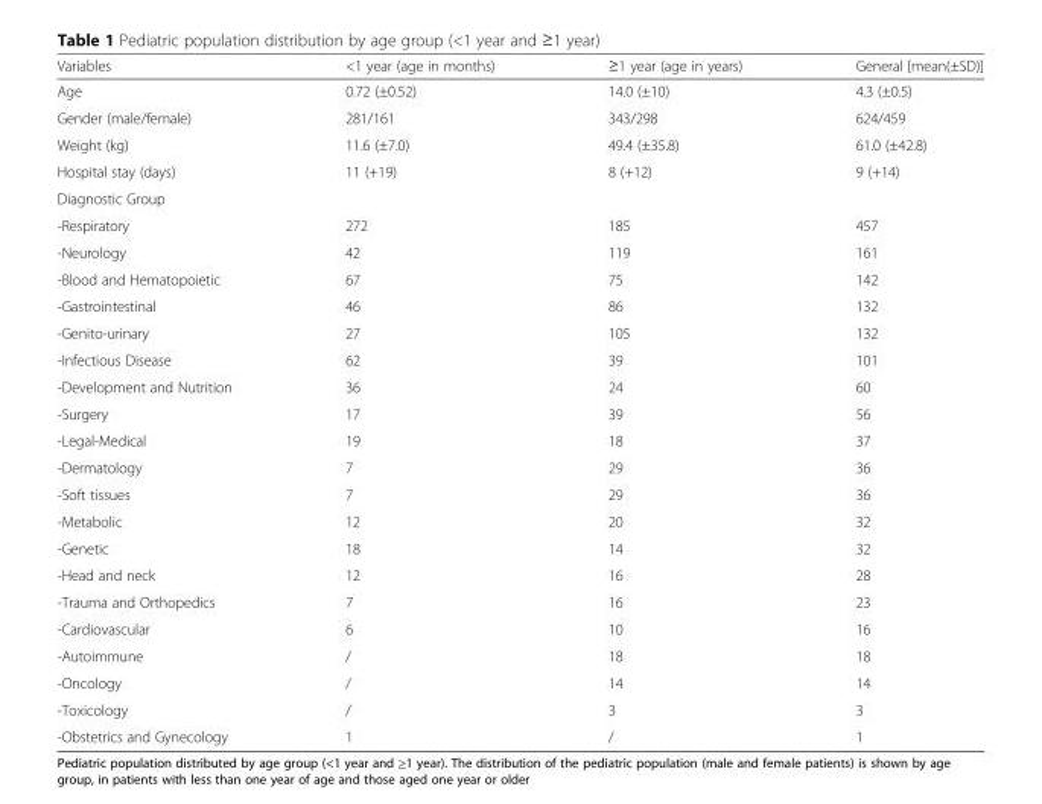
<table><thead><tr><td>Variables</td><td>&lt;1 year (age in months)</td><td>≥1 year (age in years)</td><td>General [mean(±SD)]</td></tr></thead><tbody><tr><td>Age</td><td>0.72 (±0.52)</td><td>14.0 (±10)</td><td>4.3 (±0.5)</td></tr><tr><td>Gender (male/female)</td><td>281/161</td><td>343/298</td><td>624/459</td></tr><tr><td>Weight (kg)</td><td>11.6 (±7.0)</td><td>49.4 (±35.8)</td><td>61.0 (±42.8)</td></tr><tr><td>Hospital stay (days)</td><td>11 (+19)</td><td>8 (+12)</td><td>9 (+14)</td></tr><tr><td colspan="4">Diagnostic Group</td></tr><tr><td>-Respiratory</td><td>272</td><td>185</td><td>457</td></tr><tr><td>-Neurology</td><td>42</td><td>119</td><td>161</td></tr><tr><td>-Blood and Hematopoietic</td><td>67</td><td>75</td><td>142</td></tr><tr><td>-Gastrointestinal</td><td>46</td><td>86</td><td>132</td></tr><tr><td>-Genito-urinary</td><td>27</td><td>105</td><td>132</td></tr><tr><td>-Infectious Disease</td><td>62</td><td>39</td><td>101</td></tr><tr><td>-Development and Nutrition</td><td>36</td><td>24</td><td>60</td></tr><tr><td>-Surgery</td><td>17</td><td>39</td><td>56</td></tr><tr><td>-Legal-Medical</td><td>19</td><td>18</td><td>37</td></tr><tr><td>-Dermatology</td><td>7</td><td>29</td><td>36</td></tr><tr><td>-Soft tissues</td><td>7</td><td>29</td><td>36</td></tr><tr><td>-Metabolic</td><td>12</td><td>20</td><td>32</td></tr><tr><td>-Genetic</td><td>18</td><td>14</td><td>32</td></tr><tr><td>-Head and neck</td><td>12</td><td>16</td><td>28</td></tr><tr><td>-Trauma and Orthopedics</td><td>7</td><td>16</td><td>23</td></tr><tr><td>-Cardiovascular</td><td>6</td><td>10</td><td>16</td></tr><tr><td>-Autoimmune</td><td>/</td><td>18</td><td>18</td></tr><tr><td>-Oncology</td><td>/</td><td>14</td><td>14</td></tr><tr><td>-Toxicology</td><td>/</td><td>3</td><td>3</td></tr><tr><td>-Obstetrics and Gynecology</td><td>1</td><td>/</td><td>1</td></tr></tbody></table>